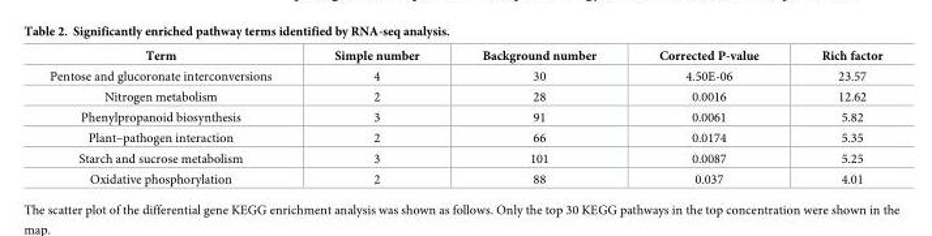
<table><thead><tr><td>Term</td><td>Simple number</td><td>Background number</td><td>Corrected P-value</td><td>Rich factor</td></tr></thead><tbody><tr><td>Pentose and glucoronate interconversions</td><td>4</td><td>30</td><td>4.50E-06</td><td>23.57</td></tr><tr><td>Nitrogen metabolism</td><td>2</td><td>28</td><td>0.0016</td><td>12.62</td></tr><tr><td>Phenylpropanoid biosynthesis</td><td>3</td><td>91</td><td>0.0061</td><td>5.82</td></tr><tr><td>Plant–pathogen interaction</td><td>2</td><td>66</td><td>0.0174</td><td>5.35</td></tr><tr><td>Starch and sucrose metabolism</td><td>3</td><td>101</td><td>0.0087</td><td>5.25</td></tr><tr><td>Oxidative phosphorylation</td><td>2</td><td>88</td><td>0.037</td><td>4.01</td></tr></tbody></table>